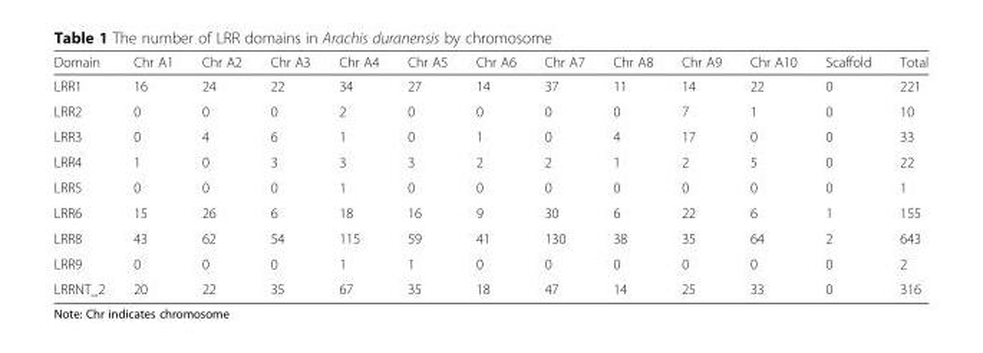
<table><thead><tr><td>Domain</td><td>Chr A1</td><td>Chr A2</td><td>Chr A3</td><td>Chr A4</td><td>Chr A5</td><td>Chr A6</td><td>Chr A7</td><td>Chr A8</td><td>Chr A9</td><td>Chr A10</td><td>Scaffold</td><td>Total</td></tr></thead><tbody><tr><td>LRR1</td><td>16</td><td>24</td><td>22</td><td>34</td><td>27</td><td>14</td><td>37</td><td>11</td><td>14</td><td>22</td><td>0</td><td>221</td></tr><tr><td>LRR2</td><td>0</td><td>0</td><td>0</td><td>2</td><td>0</td><td>0</td><td>0</td><td>0</td><td>7</td><td>1</td><td>0</td><td>10</td></tr><tr><td>LRR3</td><td>0</td><td>4</td><td>6</td><td>1</td><td>0</td><td>1</td><td>0</td><td>4</td><td>17</td><td>0</td><td>0</td><td>33</td></tr><tr><td>LRR4</td><td>1</td><td>0</td><td>3</td><td>3</td><td>3</td><td>2</td><td>2</td><td>1</td><td>2</td><td>5</td><td>0</td><td>22</td></tr><tr><td>LRR5</td><td>0</td><td>0</td><td>0</td><td>1</td><td>0</td><td>0</td><td>0</td><td>0</td><td>0</td><td>0</td><td>0</td><td>1</td></tr><tr><td>LRR6</td><td>15</td><td>26</td><td>6</td><td>18</td><td>16</td><td>9</td><td>30</td><td>6</td><td>22</td><td>6</td><td>1</td><td>155</td></tr><tr><td>LRR8</td><td>43</td><td>62</td><td>54</td><td>115</td><td>59</td><td>41</td><td>130</td><td>38</td><td>35</td><td>64</td><td>2</td><td>643</td></tr><tr><td>LRR9</td><td>0</td><td>0</td><td>0</td><td>1</td><td>1</td><td>0</td><td>0</td><td>0</td><td>0</td><td>0</td><td>0</td><td>2</td></tr><tr><td>LRRNT_2</td><td>20</td><td>22</td><td>35</td><td>67</td><td>35</td><td>18</td><td>47</td><td>14</td><td>25</td><td>33</td><td>0</td><td>316</td></tr></tbody></table>